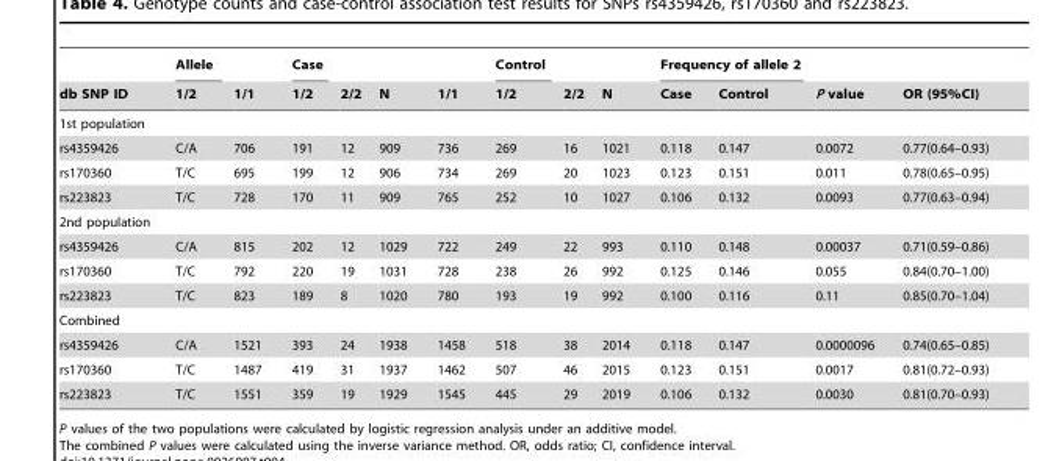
<table><thead><tr><td rowspan="2">db SNP ID</td><td rowspan="2">Allele 1/2</td><td rowspan="2">1/1</td><td rowspan="2">Case 1/2</td><td rowspan="2">2/2</td><td rowspan="2">N</td><td rowspan="2">1/1</td><td rowspan="2">Control 1/2</td><td rowspan="2">2/2</td><td rowspan="2">N</td><td colspan="2">Frequency of allele 2</td><td rowspan="2">P value</td><td rowspan="2">OR (95%CI)</td></tr><tr><td>Case</td><td>Control</td></tr></thead><tbody><tr><td colspan="14">1st population</td></tr><tr><td>rs4359426</td><td>C/A</td><td>706</td><td>191</td><td>12</td><td>909</td><td>736</td><td>269</td><td>16</td><td>1021</td><td>0.118</td><td>0.147</td><td>0.0072</td><td>0.77(0.64–0.93)</td></tr><tr><td>rs170360</td><td>T/C</td><td>695</td><td>199</td><td>12</td><td>906</td><td>734</td><td>269</td><td>20</td><td>1023</td><td>0.123</td><td>0.151</td><td>0.011</td><td>0.78(0.65–0.95)</td></tr><tr><td>rs223823</td><td>T/C</td><td>728</td><td>170</td><td>11</td><td>909</td><td>765</td><td>252</td><td>10</td><td>1027</td><td>0.106</td><td>0.132</td><td>0.0093</td><td>0.77(0.63–0.94)</td></tr><tr><td colspan="14">2nd population</td></tr><tr><td>rs4359426</td><td>C/A</td><td>815</td><td>202</td><td>12</td><td>1029</td><td>722</td><td>249</td><td>22</td><td>993</td><td>0.110</td><td>0.148</td><td>0.00037</td><td>0.71(0.59–0.86)</td></tr><tr><td>rs170360</td><td>T/C</td><td>792</td><td>220</td><td>19</td><td>1031</td><td>728</td><td>238</td><td>26</td><td>992</td><td>0.125</td><td>0.146</td><td>0.055</td><td>0.84(0.70–1.00)</td></tr><tr><td>rs223823</td><td>T/C</td><td>823</td><td>189</td><td>8</td><td>1020</td><td>780</td><td>193</td><td>19</td><td>992</td><td>0.100</td><td>0.116</td><td>0.11</td><td>0.85(0.70–1.04)</td></tr><tr><td colspan="14">Combined</td></tr><tr><td>rs4359426</td><td>C/A</td><td>1521</td><td>393</td><td>24</td><td>1938</td><td>1458</td><td>518</td><td>38</td><td>2014</td><td>0.118</td><td>0.147</td><td>0.0000096</td><td>0.74(0.65–0.85)</td></tr><tr><td>rs170360</td><td>T/C</td><td>1487</td><td>419</td><td>31</td><td>1937</td><td>1462</td><td>507</td><td>46</td><td>2015</td><td>0.123</td><td>0.151</td><td>0.0017</td><td>0.81(0.72–0.93)</td></tr><tr><td>rs223823</td><td>T/C</td><td>1551</td><td>359</td><td>19</td><td>1929</td><td>1545</td><td>445</td><td>29</td><td>2019</td><td>0.106</td><td>0.132</td><td>0.0030</td><td>0.81(0.70–0.93)</td></tr></tbody></table>